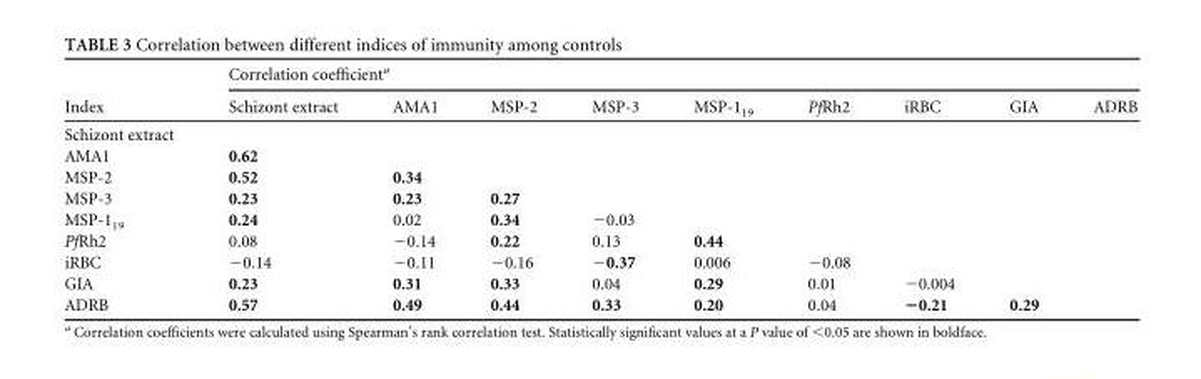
<table><thead><tr><td rowspan="2">Index</td><td colspan="9">Correlation coefficient<sup>a</sup></td></tr><tr><td>Schizont extract</td><td>AMA1</td><td>MSP-2</td><td>MSP-3</td><td>MSP-1<sub>19</sub></td><td>PfRh2</td><td>iRBC</td><td>GIA</td><td>ADRB</td></tr></thead><tbody><tr><td colspan="10">Schizont extract</td></tr><tr><td>AMA1</td><td>0.62</td><td></td><td></td><td></td><td></td><td></td><td></td><td></td><td></td></tr><tr><td>MSP-2</td><td>0.52</td><td>0.34</td><td></td><td></td><td></td><td></td><td></td><td></td><td></td></tr><tr><td>MSP-3</td><td>0.23</td><td>0.23</td><td>0.27</td><td></td><td></td><td></td><td></td><td></td><td></td></tr><tr><td>MSP-1<sub>19</sub></td><td>0.24</td><td>0.02</td><td>0.34</td><td>−0.03</td><td></td><td></td><td></td><td></td><td></td></tr><tr><td>PfRh2</td><td>0.08</td><td>−0.14</td><td>0.22</td><td>0.13</td><td>0.44</td><td></td><td></td><td></td><td></td></tr><tr><td>iRBC</td><td>−0.14</td><td>−0.11</td><td>−0.16</td><td>−0.37</td><td>0.006</td><td>−0.08</td><td></td><td></td><td></td></tr><tr><td>GIA</td><td>0.23</td><td>0.31</td><td>0.33</td><td>0.04</td><td>0.29</td><td>0.01</td><td>−0.004</td><td></td><td></td></tr><tr><td>ADRB</td><td>0.57</td><td>0.49</td><td>0.44</td><td>0.33</td><td>0.20</td><td>0.04</td><td>−0.21</td><td>0.29</td><td></td></tr></tbody></table>